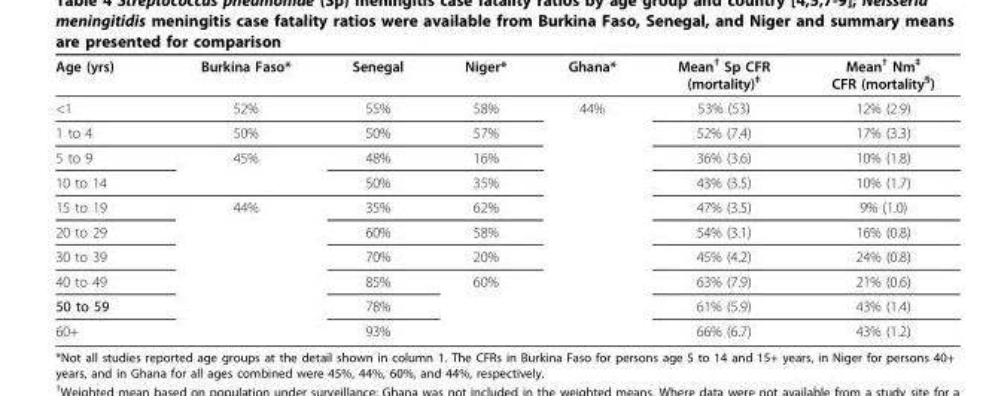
<table><tbody><tr><td>Age (yrs)</td><td>Burkina Faso*</td><td>Senegal</td><td>Niger*</td><td>Ghana*</td><td>Mean<sup>†</sup> Sp CFR (mortality)<sup>‡</sup></td><td>Mean<sup>†</sup> Nm<sup>‡</sup> CFR (mortality<sup>§</sup>)</td></tr><tr><td>&lt;1</td><td>52%</td><td>55%</td><td>58%</td><td>44%</td><td>53% (53)</td><td>12% (2.9)</td></tr><tr><td>1 to 4</td><td>50%</td><td>50%</td><td>57%</td><td></td><td>52% (7.4)</td><td>17% (3.3)</td></tr><tr><td>5 to 9</td><td>45%</td><td>48%</td><td>16%</td><td></td><td>36% (3.6)</td><td>10% (1.8)</td></tr><tr><td>10 to 14</td><td></td><td>50%</td><td>35%</td><td></td><td>43% (3.5)</td><td>10% (1.7)</td></tr><tr><td>15 to 19</td><td>44%</td><td>35%</td><td>62%</td><td></td><td>47% (3.5)</td><td>9% (1.0)</td></tr><tr><td>20 to 29</td><td></td><td>60%</td><td>58%</td><td></td><td>54% (3.1)</td><td>16% (0.8)</td></tr><tr><td>30 to 39</td><td></td><td>70%</td><td>20%</td><td></td><td>45% (4.2)</td><td>24% (0.8)</td></tr><tr><td>40 to 49</td><td></td><td>85%</td><td>60%</td><td></td><td>63% (7.9)</td><td>21% (0.6)</td></tr><tr><td>50 to 59</td><td></td><td>78%</td><td></td><td></td><td>61% (5.9)</td><td>43% (1.4)</td></tr><tr><td>60+</td><td></td><td>93%</td><td></td><td></td><td>66% (6.7)</td><td>43% (1.2)</td></tr></tbody></table>